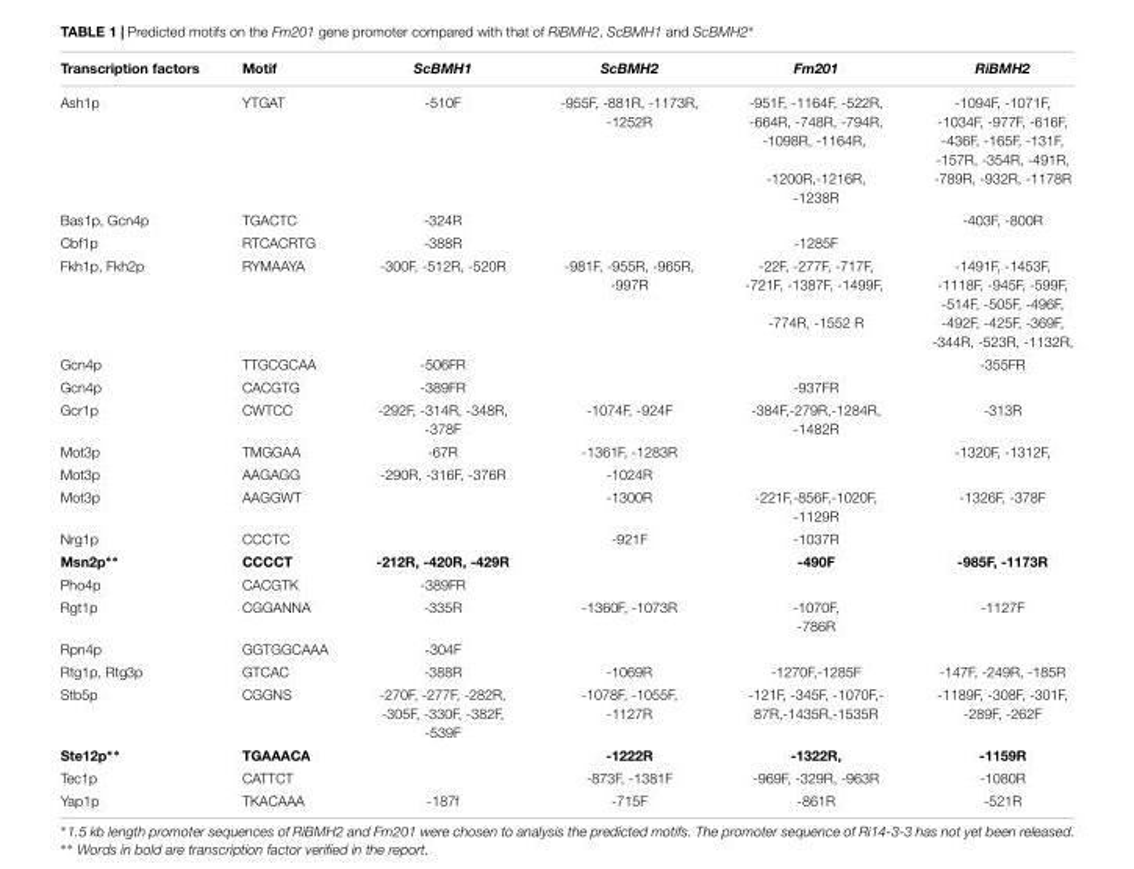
<table><thead><tr><td>Transcription factors</td><td>Motif</td><td>ScBMH1</td><td>ScBMH2</td><td>Fm201</td><td>RiBMH2</td></tr></thead><tbody><tr><td>Ash1p</td><td>YTGAT</td><td>-510F</td><td>-955F, -881R, -1173R, -1252R</td><td>-951F, -1164F, -522R, -664R, -748R, -794R, -1098R, -1164R, -1200R,-1216R, -1238R</td><td>-1094F, -1071F, -1034F, -977F, -616F, -436F, -165F, -131F, -157R, -354R, -491R, -789R, -932R, -1178R</td></tr><tr><td>Bas1p, Gcn4p</td><td>TGACTC</td><td>-324R</td><td></td><td></td><td>-403F, -800R</td></tr><tr><td>Cbf1p</td><td>RTCACRTG</td><td>-388R</td><td></td><td>-1285F</td><td></td></tr><tr><td>Fkh1p, Fkh2p</td><td>RYMAAYA</td><td>-300F, -512R, -520R</td><td>-981F, -955R, -965R, -997R</td><td>-22F, -277F, -717F, -721F, -1387F, -1499F, -774R, -1552 R</td><td>-1491F, -1453F, -1118F, -945F, -599F, -514F, -505F, -496F, -492F, -425F, -369F, -344R, -523R, -1132R,</td></tr><tr><td>Gcn4p</td><td>TTGCGCAA</td><td>-506FR</td><td></td><td></td><td>-355FR</td></tr><tr><td>Gcn4p</td><td>CACGTG</td><td>-389FR</td><td></td><td>-937FR</td><td></td></tr><tr><td>Gcr1p</td><td>CWTCC</td><td>-292F, -314R, -348R, -378F</td><td>-1074F, -924F</td><td>-384F,-279R,-1284R, -1482R</td><td>-313R</td></tr><tr><td>Mot3p</td><td>TMGGAA</td><td>-67R</td><td>-1361F, -1283R</td><td></td><td>-1320F, -1312F,</td></tr><tr><td>Mot3p</td><td>AAGAGG</td><td>-290R, -316F, -376R</td><td>-1024R</td><td></td><td></td></tr><tr><td>Mot3p</td><td>AAGGWT</td><td></td><td>-1300R</td><td>-221F,-856F,-1020F, -1129R</td><td>-1326F, -378F</td></tr><tr><td>Nrg1p</td><td>CCCTC</td><td></td><td>-921F</td><td>-1037R</td><td></td></tr><tr><td>Msn2p∗∗</td><td>CCCCT</td><td>-212R, -420R, -429R</td><td></td><td>-490F</td><td>-985F, -1173R</td></tr><tr><td>Pho4p</td><td>CACGTK</td><td>-389FR</td><td></td><td></td><td></td></tr><tr><td>Rgt1p</td><td>CGGANNA</td><td>-335R</td><td>-1360F, -1073R</td><td>-1070F, -786R</td><td>-1127F</td></tr><tr><td>Rpn4p</td><td>GGTGGCAAA</td><td>-304F</td><td></td><td></td><td></td></tr><tr><td>Rtg1p, Rtg3p</td><td>GTCAC</td><td>-388R</td><td>-1069R</td><td>-1270F,-1285F</td><td>-147F, -249R, -185R</td></tr><tr><td>Stb5p</td><td>CGGNS</td><td>-270F, -277F, -282R, -305F, -330F, -382F, -539F</td><td>-1078F, -1055F, -1127R</td><td>-121F, -345F, -1070F,- 87R,-1435R,-1535R</td><td>-1189F, -308F, -301F, -289F, -262F</td></tr><tr><td>Ste12p∗∗</td><td>TGAAACA</td><td></td><td>-1222R</td><td>-1322R,</td><td>-1159R</td></tr><tr><td>Tec1p</td><td>CATTCT</td><td></td><td>-873F, -1381F</td><td>-969F, -329R, -963R</td><td>-1080R</td></tr><tr><td>Yap1p</td><td>TKACAAA</td><td>-187f</td><td>-715F</td><td>-861R</td><td>-521R</td></tr></tbody></table>